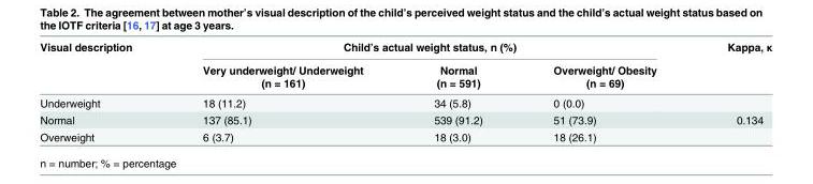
<table><thead><tr><td rowspan="3">Visual description</td><td colspan="3">Child’s actual weight status, n (%)</td><td rowspan="3">Kappa, κ</td></tr><tr><td rowspan="2">Very underweight/ Underweight (n = 161)</td><td rowspan="2">Normal (n = 591)</td><td rowspan="2">Overweight/ Obesity (n = 69)</td></tr><tr></tr></thead><tbody><tr><td>Underweight</td><td>18 (11.2)</td><td>34 (5.8)</td><td>0 (0.0)</td><td></td></tr><tr><td>Normal</td><td>137 (85.1)</td><td>539 (91.2)</td><td>51 (73.9)</td><td>0.134</td></tr><tr><td>Overweight</td><td>6 (3.7)</td><td>18 (3.0)</td><td>18 (26.1)</td><td></td></tr></tbody></table>